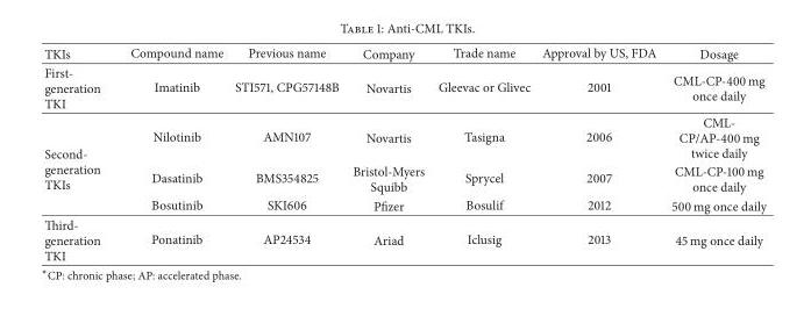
<table><thead><tr><td>TKIs</td><td>Compound name</td><td>Previous name</td><td>Company</td><td>Trade name</td><td>Approval by US, FDA</td><td>Dosage</td></tr></thead><tbody><tr><td>First- generation TKI</td><td>Imatinib</td><td>STI571, CPG57148B</td><td>Novartis</td><td>Gleevac or Glivec</td><td>2001</td><td>CML-CP-400 mg once daily</td></tr><tr><td rowspan="3">Second- generation TKIs</td><td>Nilotinib</td><td>AMN107</td><td>Novartis</td><td>Tasigna</td><td>2006</td><td>CML- CP/AP-400 mg twice daily</td></tr><tr><td>Dasatinib</td><td>BMS354825</td><td>Bristol-Myers Squibb</td><td>Sprycel</td><td>2007</td><td>CML-CP-100 mg once daily</td></tr><tr><td>Bosutinib</td><td>SKI606</td><td>Pfizer</td><td>Bosulif</td><td>2012</td><td>500 mg once daily</td></tr><tr><td>Third- generation TKI</td><td>Ponatinib</td><td>AP24534</td><td>Ariad</td><td>Iclusig</td><td>2013</td><td>45 mg once daily</td></tr></tbody></table>